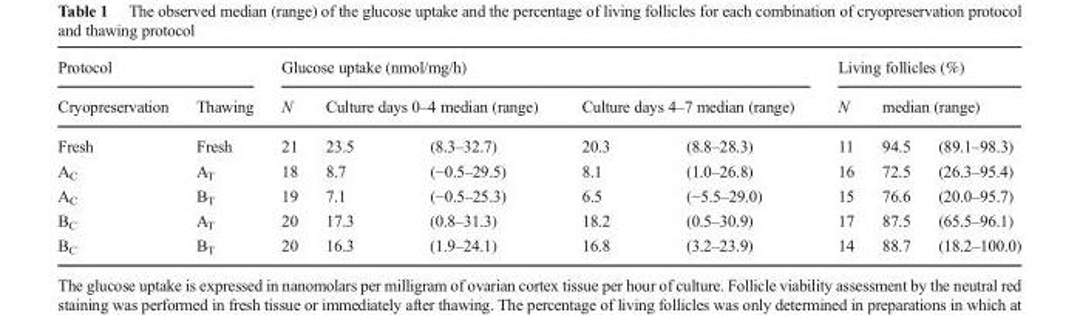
<table><thead><tr><td colspan="2">Protocol</td><td colspan="5">Glucose uptake (nmol/mg/h)</td><td colspan="3">Living follicles (%)</td></tr><tr><td rowspan="2">Cryopreservation Fresh</td><td rowspan="2">Thawing Fresh</td><td rowspan="2">N 21</td><td colspan="2">Culture days 0–4 median (range)</td><td colspan="2">Culture days 4–7 median (range)</td><td rowspan="2">N 11</td><td colspan="2">median (range)</td></tr><tr><td>23.5</td><td>(8.3–32.7)</td><td>20.3</td><td>(8.8–28.3)</td><td>94.5</td><td>(89.1–98.3)</td></tr></thead><tbody><tr><td>A<sub>C</sub></td><td>A<sub>T</sub></td><td>18</td><td>8.7</td><td>(−0.5–29.5)</td><td>8.1</td><td>(1.0–26.8)</td><td>16</td><td>72.5</td><td>(26.3–95.4)</td></tr><tr><td>A<sub>C</sub></td><td>B<sub>T</sub></td><td>19</td><td>7.1</td><td>(−0.5–25.3)</td><td>6.5</td><td>(−5.5–29.0)</td><td>15</td><td>76.6</td><td>(20.0–95.7)</td></tr><tr><td>B<sub>C</sub></td><td>A<sub>T</sub></td><td>20</td><td>17.3</td><td>(0.8–31.3)</td><td>18.2</td><td>(0.5–30.9)</td><td>17</td><td>87.5</td><td>(65.5–96.1)</td></tr><tr><td>B<sub>C</sub></td><td>B<sub>T</sub></td><td>20</td><td>16.3</td><td>(1.9–24.1)</td><td>16.8</td><td>(3.2–23.9)</td><td>14</td><td>88.7</td><td>(18.2–100.0)</td></tr></tbody></table>